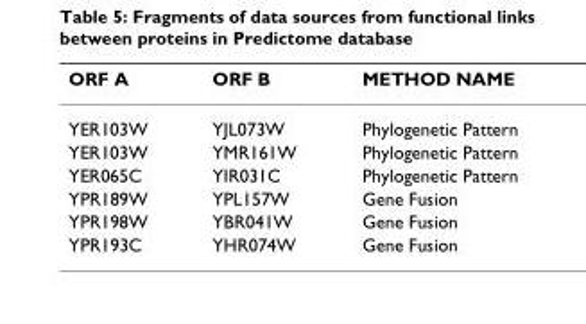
<table><thead><tr><td>ORF A</td><td>ORF B</td><td>METHOD NAME</td></tr></thead><tbody><tr><td>YER103W</td><td>YJL073W</td><td>Phylogenetic Pattern</td></tr><tr><td>YER103W</td><td>YMR161W</td><td>Phylogenetic Pattern</td></tr><tr><td>YER065C</td><td>YIR031C</td><td>Phylogenetic Pattern</td></tr><tr><td>YPR189W</td><td>YPL157W</td><td>Gene Fusion</td></tr><tr><td>YPR198W</td><td>YBR041W</td><td>Gene Fusion</td></tr><tr><td>YPR193C</td><td>YHR074W</td><td>Gene Fusion</td></tr></tbody></table>